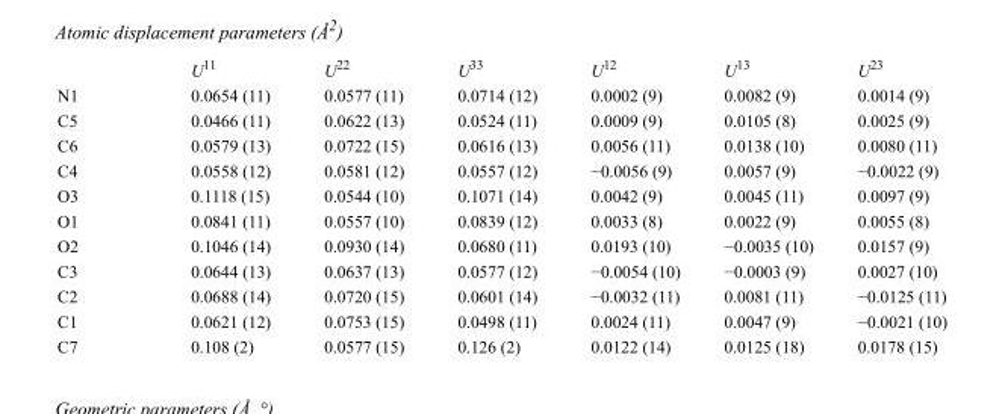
<table><thead><tr><td></td><td>U<sup>11</sup></td><td>U<sup>22</sup></td><td>U<sup>33</sup></td><td>U<sup>12</sup></td><td>U<sup>13</sup></td><td>U<sup>23</sup></td></tr></thead><tbody><tr><td>N1</td><td>0.0654 (11)</td><td>0.0577 (11)</td><td>0.0714 (12)</td><td>0.0002 (9)</td><td>0.0082 (9)</td><td>0.0014 (9)</td></tr><tr><td>C5</td><td>0.0466 (11)</td><td>0.0622 (13)</td><td>0.0524 (11)</td><td>0.0009 (9)</td><td>0.0105 (8)</td><td>0.0025 (9)</td></tr><tr><td>C6</td><td>0.0579 (13)</td><td>0.0722 (15)</td><td>0.0616 (13)</td><td>0.0056 (11)</td><td>0.0138 (10)</td><td>0.0080 (11)</td></tr><tr><td>C4</td><td>0.0558 (12)</td><td>0.0581 (12)</td><td>0.0557 (12)</td><td>−0.0056 (9)</td><td>0.0057 (9)</td><td>−0.0022 (9)</td></tr><tr><td>O3</td><td>0.1118 (15)</td><td>0.0544 (10)</td><td>0.1071 (14)</td><td>0.0042 (9)</td><td>0.0045 (11)</td><td>0.0097 (9)</td></tr><tr><td>O1</td><td>0.0841 (11)</td><td>0.0557 (10)</td><td>0.0839 (12)</td><td>0.0033 (8)</td><td>0.0022 (9)</td><td>0.0055 (8)</td></tr><tr><td>O2</td><td>0.1046 (14)</td><td>0.0930 (14)</td><td>0.0680 (11)</td><td>0.0193 (10)</td><td>−0.0035 (10)</td><td>0.0157 (9)</td></tr><tr><td>C3</td><td>0.0644 (13)</td><td>0.0637 (13)</td><td>0.0577 (12)</td><td>−0.0054 (10)</td><td>−0.0003 (9)</td><td>0.0027 (10)</td></tr><tr><td>C2</td><td>0.0688 (14)</td><td>0.0720 (15)</td><td>0.0601 (14)</td><td>−0.0032 (11)</td><td>0.0081 (11)</td><td>−0.0125 (11)</td></tr><tr><td>C1</td><td>0.0621 (12)</td><td>0.0753 (15)</td><td>0.0498 (11)</td><td>0.0024 (11)</td><td>0.0047 (9)</td><td>−0.0021 (10)</td></tr><tr><td>C7</td><td>0.108 (2)</td><td>0.0577 (15)</td><td>0.126 (2)</td><td>0.0122 (14)</td><td>0.0125 (18)</td><td>0.0178 (15)</td></tr></tbody></table>